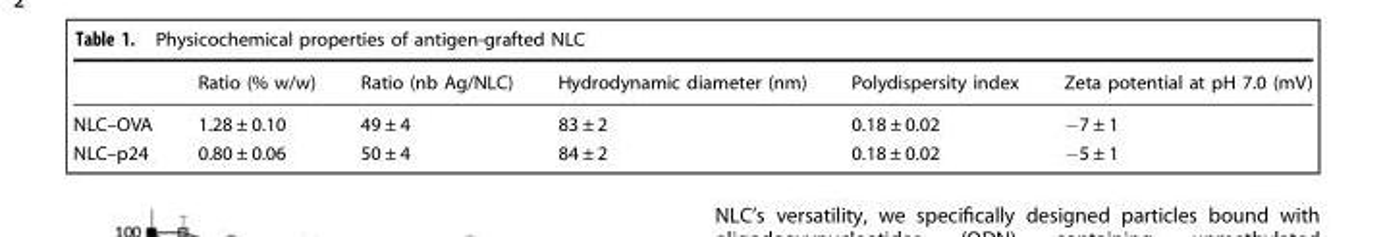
<table><thead><tr><td></td><td>Ratio (% w/w)</td><td>Ratio (nb Ag/NLC)</td><td>Hydrodynamic diameter (nm)</td><td>Polydispersity index</td><td>Zeta potential at pH 7.0 (mV)</td></tr></thead><tbody><tr><td>NLC–OVA</td><td>1.28 ± 0.10</td><td>49 ± 4</td><td>83 ± 2</td><td>0.18 ± 0.02</td><td>−7 ± 1</td></tr><tr><td>NLC–p24</td><td>0.80 ± 0.06</td><td>50 ± 4</td><td>84 ± 2</td><td>0.18 ± 0.02</td><td>−5 ± 1</td></tr></tbody></table>